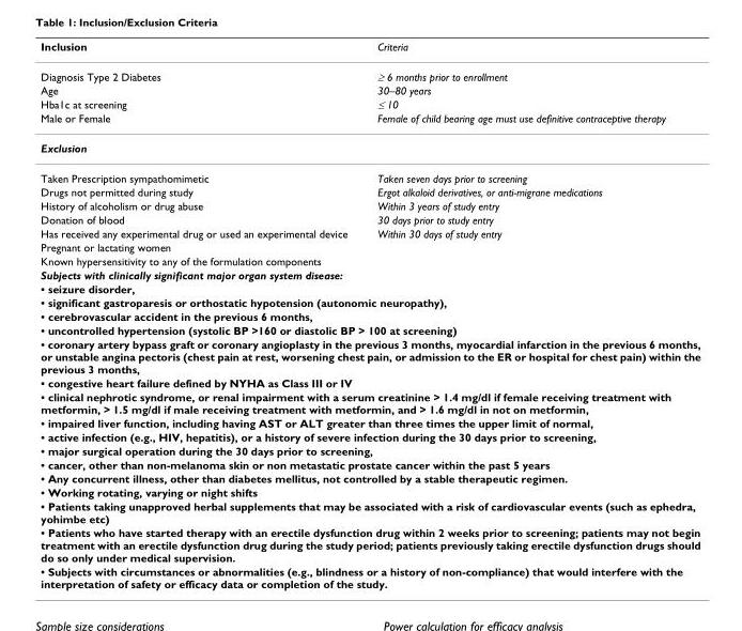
<table><thead><tr><td>Inclusion</td><td>Criteria</td></tr></thead><tbody><tr><td>Diagnosis Type 2 Diabetes</td><td>≥ 6 months prior to enrollment</td></tr><tr><td>Age</td><td>30–80 years</td></tr><tr><td>Hba1c at screening</td><td>≤ 10</td></tr><tr><td>Male or Female</td><td>Female of child bearing age must use definitive contraceptive therapy</td></tr><tr><td colspan="2">Exclusion</td></tr><tr><td>Taken Prescription sympathomimetic</td><td>Taken seven days prior to screening</td></tr><tr><td>Drugs not permitted during study</td><td>Ergot alkaloid derivatives, or anti-migrane medications</td></tr><tr><td>History of alcoholism or drug abuse</td><td>Within 3 years of study entry</td></tr><tr><td>Donation of blood</td><td>30 days prior to study entry</td></tr><tr><td>Has received any experimental drug or used an experimental device</td><td>Within 30 days of study entry</td></tr><tr><td colspan="2">Pregnant or lactating women</td></tr><tr><td colspan="2">Known hypersensitivity to any of the formulation components</td></tr><tr><td colspan="2">Subjects with clinically significant major organ system disease:</td></tr><tr><td colspan="2">• seizure disorder,</td></tr><tr><td colspan="2">• significant gastroparesis or orthostatic hypotension (autonomic neuropathy),</td></tr><tr><td colspan="2">• cerebrovascular accident in the previous 6 months,</td></tr><tr><td colspan="2">• uncontrolled hypertension (systolic BP &gt;160 or diastolic BP &gt; 100 at screening)</td></tr><tr><td colspan="2">• coronary artery bypass graft or coronary angioplasty in the previous 3 months, myocardial infarction in the previous 6 months, or unstable angina pectoris (chest pain at rest, worsening chest pain, or admission to the ER or hospital for chest pain) within the previous 3 months,</td></tr><tr><td colspan="2">• congestive heart failure defined by NYHA as Class III or IV</td></tr><tr><td colspan="2">• clinical nephrotic syndrome, or renal impairment with a serum creatinine &gt; 1.4 mg/dl if female receiving treatment with metformin, &gt; 1.5 mg/dl if male receiving treatment with metformin, and &gt; 1.6 mg/dl in not on metformin,</td></tr><tr><td colspan="2">• impaired liver function, including having AST or ALT greater than three times the upper limit of normal,</td></tr><tr><td colspan="2">• active infection (e.g., HIV, hepatitis), or a history of severe infection during the 30 days prior to screening,</td></tr><tr><td colspan="2">• major surgical operation during the 30 days prior to screening,</td></tr><tr><td colspan="2">• cancer, other than non-melanoma skin or non metastatic prostate cancer within the past 5 years</td></tr><tr><td colspan="2">• Any concurrent illness, other than diabetes mellitus, not controlled by a stable therapeutic regimen.</td></tr><tr><td colspan="2">• Working rotating, varying or night shifts</td></tr><tr><td colspan="2">• Patients taking unapproved herbal supplements that may be associated with a risk of cardiovascular events (such as ephedra, yohimbe etc)</td></tr><tr><td colspan="2">• Patients who have started therapy with an erectile dysfunction drug within 2 weeks prior to screening; patients may not begin treatment with an erectile dysfunction drug during the study period; patients previously taking erectile dysfunction drugs should do so only under medical supervision.</td></tr><tr><td colspan="2">• Subjects with circumstances or abnormalities (e.g., blindness or a history of non-compliance) that would interfere with the interpretation of safety or efficacy data or completion of the study.</td></tr></tbody></table>